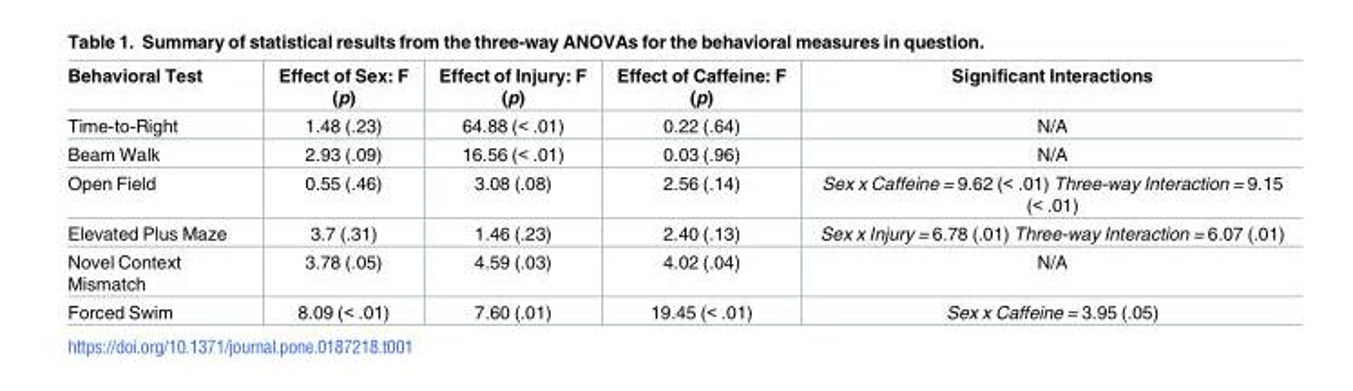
<table><thead><tr><td>Behavioral Test</td><td>Effect of Sex: F (p)</td><td>Effect of Injury: F (p)</td><td>Effect of Caffeine: F (p)</td><td>Significant Interactions</td></tr></thead><tbody><tr><td>Time-to-Right</td><td>1.48 (.23)</td><td>64.88 (&lt; .01)</td><td>0.22 (.64)</td><td>N/A</td></tr><tr><td>Beam Walk</td><td>2.93 (.09)</td><td>16.56 (&lt; .01)</td><td>0.03 (.96)</td><td>N/A</td></tr><tr><td>Open Field</td><td>0.55 (.46)</td><td>3.08 (.08)</td><td>2.56 (.14)</td><td>Sex x Caffeine = 9.62 (&lt; .01) Three-way Interaction = 9.15 (&lt; .01)</td></tr><tr><td>Elevated Plus Maze</td><td>3.7 (.31)</td><td>1.46 (.23)</td><td>2.40 (.13)</td><td>Sex x Injury = 6.78 (.01) Three-way Interaction = 6.07 (.01)</td></tr><tr><td>Novel Context Mismatch</td><td>3.78 (.05)</td><td>4.59 (.03)</td><td>4.02 (.04)</td><td>N/A</td></tr><tr><td>Forced Swim</td><td>8.09 (&lt; .01)</td><td>7.60 (.01)</td><td>19.45 (&lt; .01)</td><td>Sex x Caffeine = 3.95 (.05)</td></tr></tbody></table>